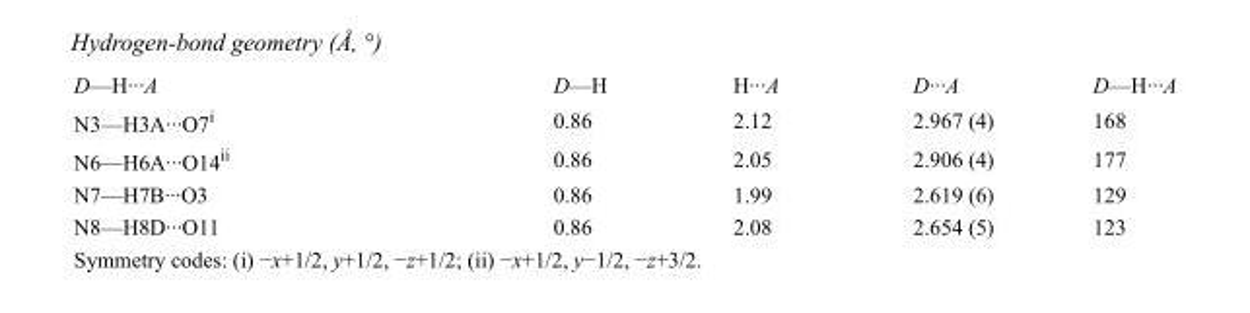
<table><tbody><tr><td>D—H···A</td><td>D—H</td><td>H···A</td><td>D···A</td><td>D—H···A</td></tr><tr><td>N3—H3A···O7<sup>i</sup></td><td>0.86</td><td>2.12</td><td>2.967 (4)</td><td>168</td></tr><tr><td>N6—H6A···O14<sup>ii</sup></td><td>0.86</td><td>2.05</td><td>2.906 (4)</td><td>177</td></tr><tr><td>N7—H7B···O3</td><td>0.86</td><td>1.99</td><td>2.619 (6)</td><td>129</td></tr><tr><td>N8—H8D···O11</td><td>0.86</td><td>2.08</td><td>2.654 (5)</td><td>123</td></tr></tbody></table>